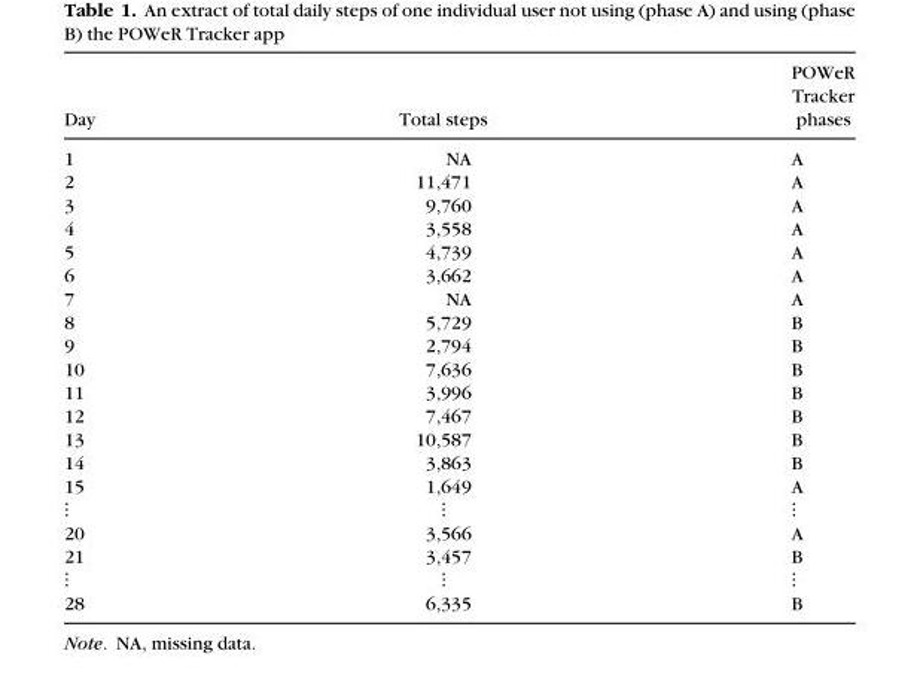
<table><thead><tr><td>Day</td><td>Total steps</td><td>POWeR Tracker phases</td></tr></thead><tbody><tr><td>1</td><td>NA</td><td>A</td></tr><tr><td>2</td><td>11,471</td><td>A</td></tr><tr><td>3</td><td>9,760</td><td>A</td></tr><tr><td>4</td><td>3,558</td><td>A</td></tr><tr><td>5</td><td>4,739</td><td>A</td></tr><tr><td>6</td><td>3,662</td><td>A</td></tr><tr><td>7</td><td>NA</td><td>A</td></tr><tr><td>8</td><td>5,729</td><td>B</td></tr><tr><td>9</td><td>2,794</td><td>B</td></tr><tr><td>10</td><td>7,636</td><td>B</td></tr><tr><td>11</td><td>3,996</td><td>B</td></tr><tr><td>12</td><td>7,467</td><td>B</td></tr><tr><td>13</td><td>10,587</td><td>B</td></tr><tr><td>14</td><td>3,863</td><td>B</td></tr><tr><td>15</td><td>1,649</td><td>A</td></tr><tr><td>⋮</td><td>⋮</td><td>⋮</td></tr><tr><td>20</td><td>3,566</td><td>A</td></tr><tr><td>21</td><td>3,457</td><td>B</td></tr><tr><td>⋮</td><td>⋮</td><td>⋮</td></tr><tr><td>28</td><td>6,335</td><td>B</td></tr></tbody></table>